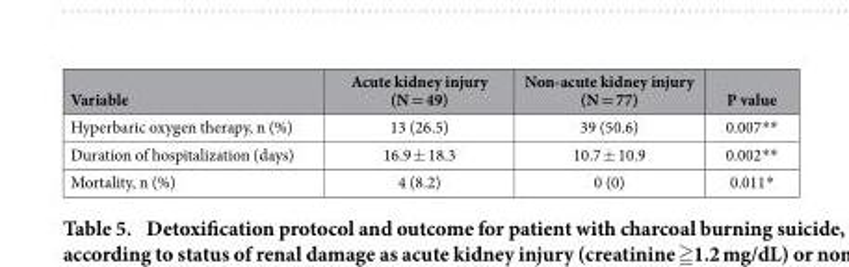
<table><thead><tr><td>Variable</td><td>Acute kidney injury (N = 49)</td><td>Non-acute kidney injury (N = 77)</td><td>P value</td></tr></thead><tbody><tr><td>Hyperbaric oxygen therapy, n (%)</td><td>13 (26.5)</td><td>39 (50.6)</td><td>0.007* *</td></tr><tr><td>Duration of hospitalization (days)</td><td>16.9 ± 18.3</td><td>10.7 ± 10.9</td><td>0.002* *</td></tr><tr><td>Mortality, n (%)</td><td>4 (8.2)</td><td>0 (0)</td><td>0.011*</td></tr></tbody></table>